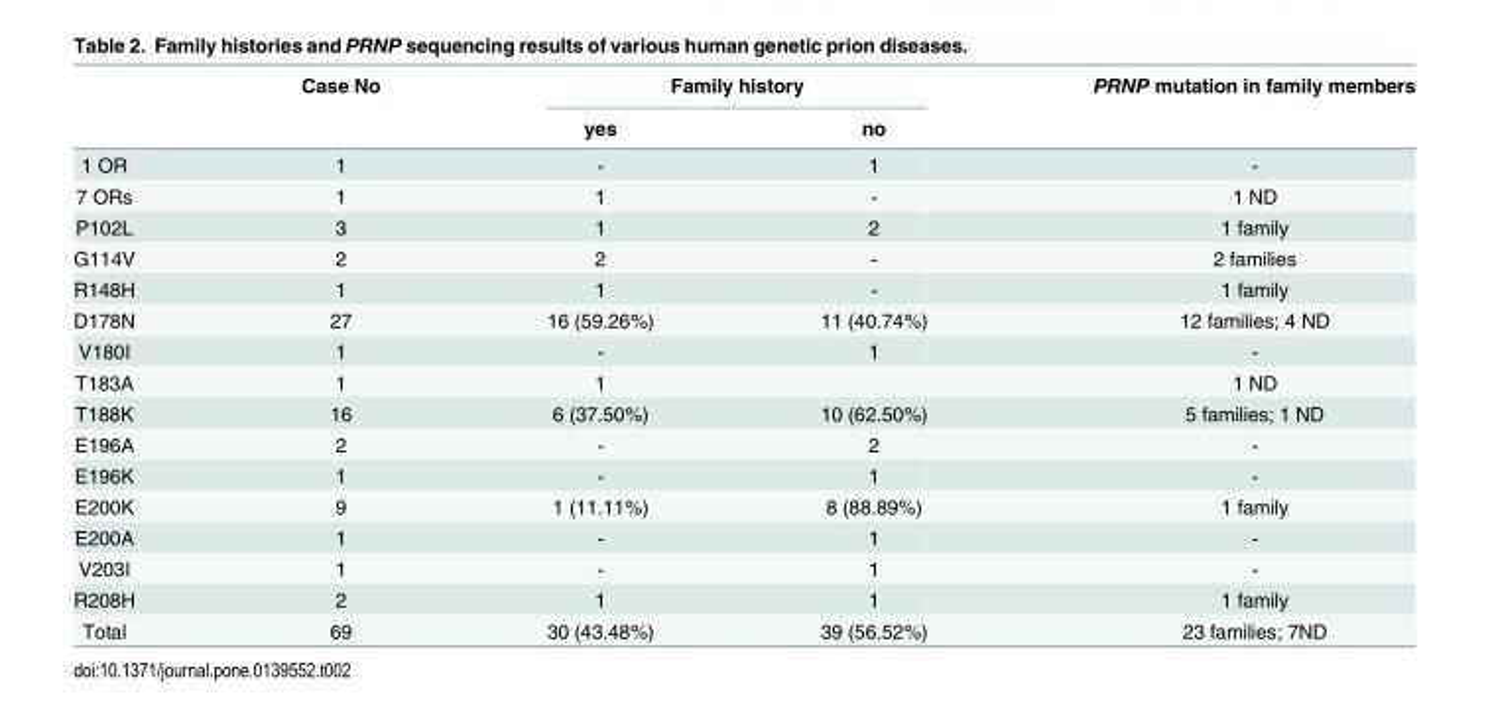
<table><thead><tr><td rowspan="2"></td><td rowspan="2">Case No</td><td colspan="2">Family history</td><td rowspan="2">PRNP mutation in family members</td></tr><tr><td>yes</td><td>no</td></tr></thead><tbody><tr><td>1 OR</td><td>1</td><td>-</td><td>1</td><td>-</td></tr><tr><td>7 ORs</td><td>1</td><td>1</td><td>-</td><td>1 ND</td></tr><tr><td>P102L</td><td>3</td><td>1</td><td>2</td><td>1 family</td></tr><tr><td>G114V</td><td>2</td><td>2</td><td>-</td><td>2 families</td></tr><tr><td>R148H</td><td>1</td><td>1</td><td>-</td><td>1 family</td></tr><tr><td>D178N</td><td>27</td><td>16 (59.26%)</td><td>11 (40.74%)</td><td>12 families; 4 ND</td></tr><tr><td>V180I</td><td>1</td><td>-</td><td>1</td><td>-</td></tr><tr><td>T183A</td><td>1</td><td>1</td><td></td><td>1 ND</td></tr><tr><td>T188K</td><td>16</td><td>6 (37.50%)</td><td>10 (62.50%)</td><td>5 families; 1 ND</td></tr><tr><td>E196A</td><td>2</td><td>-</td><td>2</td><td>-</td></tr><tr><td>E196K</td><td>1</td><td>-</td><td>1</td><td>-</td></tr><tr><td>E200K</td><td>9</td><td>1 (11.11%)</td><td>8 (88.89%)</td><td>1 family</td></tr><tr><td>E200A</td><td>1</td><td>-</td><td>1</td><td>-</td></tr><tr><td>V203I</td><td>1</td><td>-</td><td>1</td><td>-</td></tr><tr><td>R208H</td><td>2</td><td>1</td><td>1</td><td>1 family</td></tr><tr><td>Total</td><td>69</td><td>30 (43.48%)</td><td>39 (56.52%)</td><td>23 families; 7ND</td></tr></tbody></table>